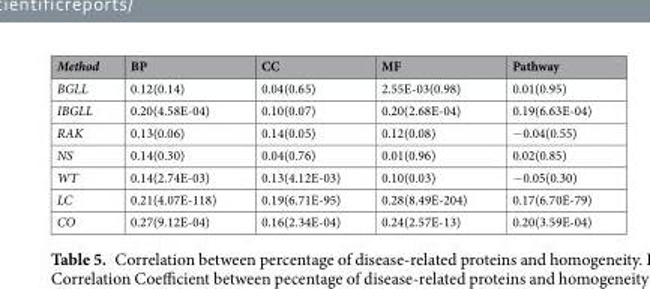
<table><thead><tr><td>Method</td><td>BP</td><td>CC</td><td>MF</td><td>Pathway</td></tr></thead><tbody><tr><td>BGLL</td><td>0.12(0.14)</td><td>0.04(0.65)</td><td>2.55E-03(0.98)</td><td>0.01(0.95)</td></tr><tr><td>IBGLL</td><td>0.20(4.58E-04)</td><td>0.10(0.07)</td><td>0.20(2.68E-04)</td><td>0.19(6.63E-04)</td></tr><tr><td>RAK</td><td>0.13(0.06)</td><td>0.14(0.05)</td><td>0.12(0.08)</td><td>−0.04(0.55)</td></tr><tr><td>NS</td><td>0.14(0.30)</td><td>0.04(0.76)</td><td>0.01(0.96)</td><td>0.02(0.85)</td></tr><tr><td>WT</td><td>0.14(2.74E-03)</td><td>0.13(4.12E-03)</td><td>0.10(0.03)</td><td>−0.05(0.30)</td></tr><tr><td>LC</td><td>0.21(4.07E-118)</td><td>0.19(6.71E-95)</td><td>0.28(8.49E-204)</td><td>0.17(6.70E-79)</td></tr><tr><td>CO</td><td>0.27(9.12E-04)</td><td>0.16(2.34E-04)</td><td>0.24(2.57E-13)</td><td>0.20(3.59E-04)</td></tr></tbody></table>